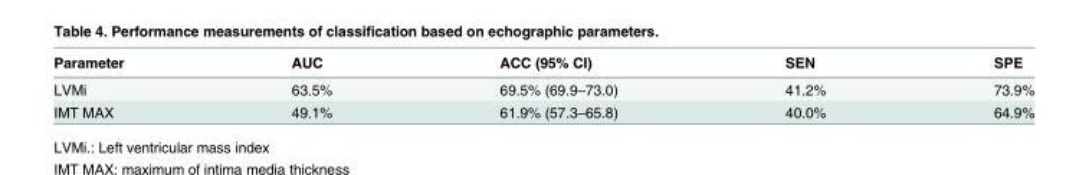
<table><thead><tr><td>Parameter</td><td>AUC</td><td>ACC (95% CI)</td><td>SEN</td><td>SPE</td></tr></thead><tbody><tr><td>LVMi</td><td>63.5%</td><td>69.5% (69.9–73.0)</td><td>41.2%</td><td>73.9%</td></tr><tr><td>IMT MAX</td><td>49.1%</td><td>61.9% (57.3–65.8)</td><td>40.0%</td><td>64.9%</td></tr></tbody></table>